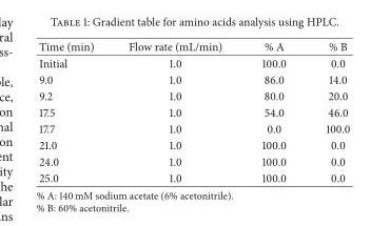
<table><thead><tr><td>Time (min)</td><td>Flow rate (mL/min)</td><td>% A</td><td>% B</td></tr></thead><tbody><tr><td>Initial</td><td>1.0</td><td>100.0</td><td>0.0</td></tr><tr><td>9.0</td><td>1.0</td><td>86.0</td><td>14.0</td></tr><tr><td>9.2</td><td>1.0</td><td>80.0</td><td>20.0</td></tr><tr><td>17.5</td><td>1.0</td><td>54.0</td><td>46.0</td></tr><tr><td>17.7</td><td>1.0</td><td>0.0</td><td>100.0</td></tr><tr><td>21.0</td><td>1.0</td><td>100.0</td><td>0.0</td></tr><tr><td>24.0</td><td>1.0</td><td>100.0</td><td>0.0</td></tr><tr><td>25.0</td><td>1.0</td><td>100.0</td><td>0.0</td></tr></tbody></table>